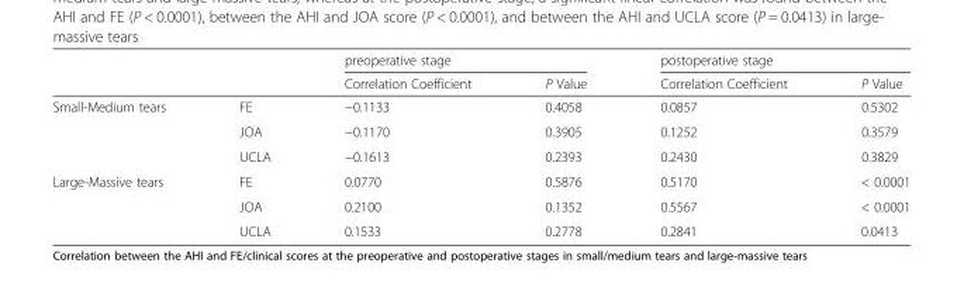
<table><thead><tr><td rowspan="2"></td><td rowspan="2"></td><td colspan="2">preoperative stage</td><td colspan="2">postoperative stage</td></tr><tr><td>Correlation Coefficient</td><td>P Value</td><td>Correlation Coefficient</td><td>P Value</td></tr></thead><tbody><tr><td rowspan="3">Small-Medium tears</td><td>FE</td><td>−0.1133</td><td>0.4058</td><td>0.0857</td><td>0.5302</td></tr><tr><td>JOA</td><td>−0.1170</td><td>0.3905</td><td>0.1252</td><td>0.3579</td></tr><tr><td>UCLA</td><td>−0.1613</td><td>0.2393</td><td>0.2430</td><td>0.3829</td></tr><tr><td rowspan="3">Large-Massive tears</td><td>FE</td><td>0.0770</td><td>0.5876</td><td>0.5170</td><td>&lt; 0.0001</td></tr><tr><td>JOA</td><td>0.2100</td><td>0.1352</td><td>0.5567</td><td>&lt; 0.0001</td></tr><tr><td>UCLA</td><td>0.1533</td><td>0.2778</td><td>0.2841</td><td>0.0413</td></tr></tbody></table>